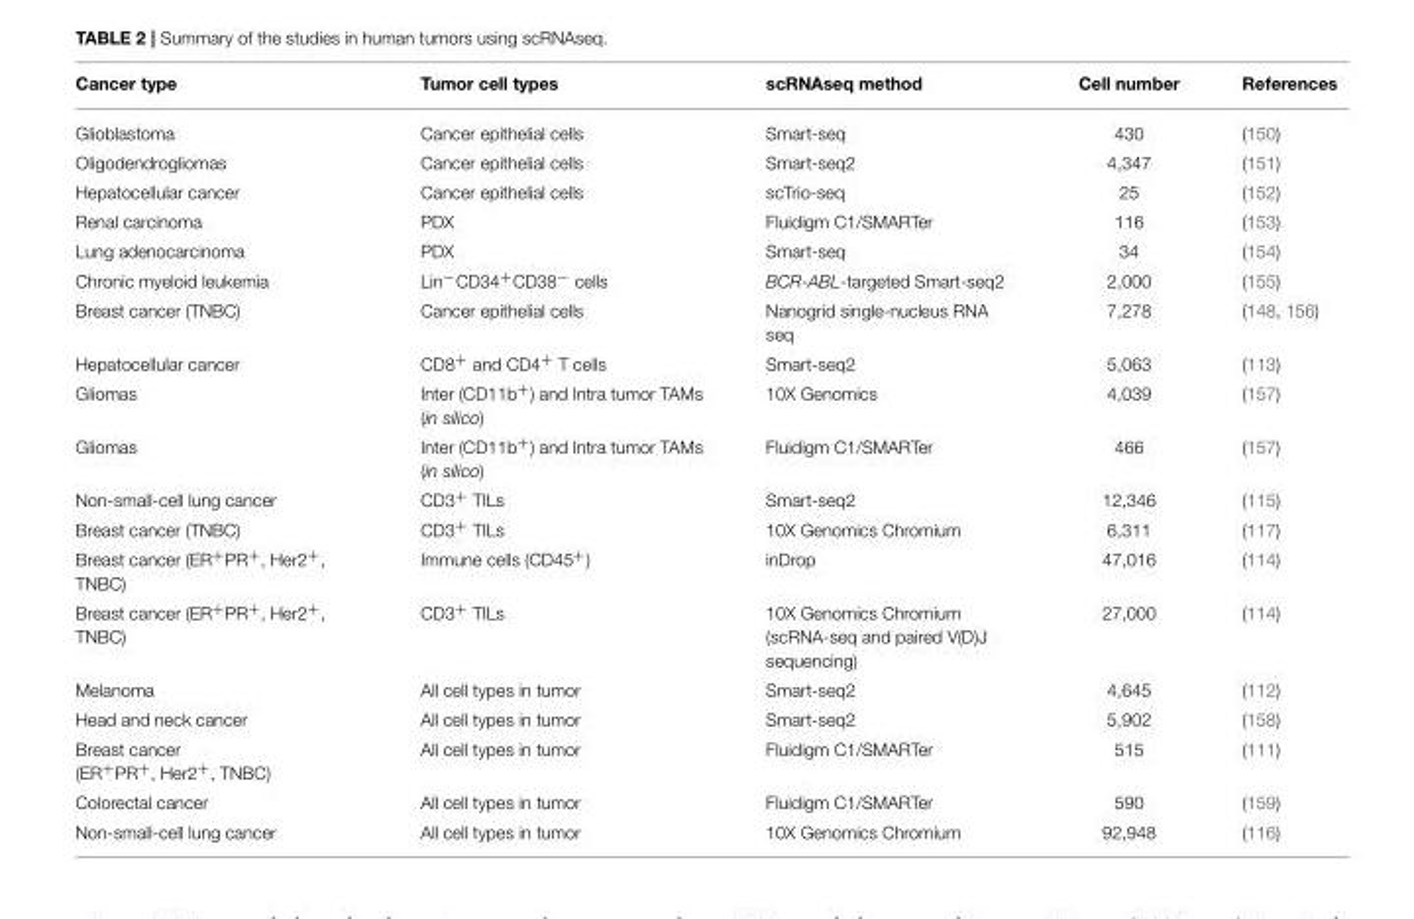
<table><thead><tr><td>Cancer type</td><td>Tumor cell types</td><td>scRNAseq method</td><td>Cell number</td><td>References</td></tr></thead><tbody><tr><td>Glioblastoma</td><td>Cancer epithelial cells</td><td>Smart-seq</td><td>430</td><td>(150)</td></tr><tr><td>Oligodendrogliomas</td><td>Cancer epithelial cells</td><td>Smart-seq2</td><td>4,347</td><td>(151)</td></tr><tr><td>Hepatocellular cancer</td><td>Cancer epithelial cells</td><td>scTrio-seq</td><td>25</td><td>(152)</td></tr><tr><td>Renal carcinoma</td><td>PDX</td><td>Fluidigm C1/SMARTer</td><td>116</td><td>(153)</td></tr><tr><td>Lung adenocarcinoma</td><td>PDX</td><td>Smart-seq</td><td>34</td><td>(154)</td></tr><tr><td>Chronic myeloid leukemia</td><td>Lin<sup>−</sup>CD34<sup>+</sup>CD38<sup>−</sup> cells</td><td>BCR-ABL-targeted Smart-seq2</td><td>2,000</td><td>(155)</td></tr><tr><td>Breast cancer (TNBC)</td><td>Cancer epithelial cells</td><td>Nanogrid single-nucleus RNA seq</td><td>7,278</td><td>(148, 156)</td></tr><tr><td>Hepatocellular cancer</td><td>CD8<sup>+</sup> and CD4<sup>+</sup> T cells</td><td>Smart-seq2</td><td>5,063</td><td>(113)</td></tr><tr><td>Gliomas</td><td>Inter (CD11b<sup>+</sup>) and Intra tumor TAMs (in silico)</td><td>10X Genomics</td><td>4,039</td><td>(157)</td></tr><tr><td>Gliomas</td><td>Inter (CD11b<sup>+</sup>) and Intra tumor TAMs (in silico)</td><td>Fluidigm C1/SMARTer</td><td>466</td><td>(157)</td></tr><tr><td>Non-small-cell lung cancer</td><td>CD3<sup>+</sup> TILs</td><td>Smart-seq2</td><td>12,346</td><td>(115)</td></tr><tr><td>Breast cancer (TNBC)</td><td>CD3<sup>+</sup> TILs</td><td>10X Genomics Chromium</td><td>6,311</td><td>(117)</td></tr><tr><td>Breast cancer (ER<sup>+</sup>PR<sup>+</sup>, Her2<sup>+</sup>, TNBC)</td><td>Immune cells (CD45<sup>+</sup>)</td><td>inDrop</td><td>47,016</td><td>(114)</td></tr><tr><td>Breast cancer (ER<sup>+</sup>PR<sup>+</sup>, Her2<sup>+</sup>, TNBC)</td><td>CD3<sup>+</sup> TILs</td><td>10X Genomics Chromium (scRNA-seq and paired V(D)J sequencing)</td><td>27,000</td><td>(114)</td></tr><tr><td>Melanoma</td><td>All cell types in tumor</td><td>Smart-seq2</td><td>4,645</td><td>(112)</td></tr><tr><td>Head and neck cancer</td><td>All cell types in tumor</td><td>Smart-seq2</td><td>5,902</td><td>(158)</td></tr><tr><td>Breast cancer (ER<sup>+</sup>PR<sup>+</sup>, Her2<sup>+</sup>, TNBC)</td><td>All cell types in tumor</td><td>Fluidigm C1/SMARTer</td><td>515</td><td>(111)</td></tr><tr><td>Colorectal cancer</td><td>All cell types in tumor</td><td>Fluidigm C1/SMARTer</td><td>590</td><td>(159)</td></tr><tr><td>Non-small-cell lung cancer</td><td>All cell types in tumor</td><td>10X Genomics Chromium</td><td>92,948</td><td>(116)</td></tr></tbody></table>